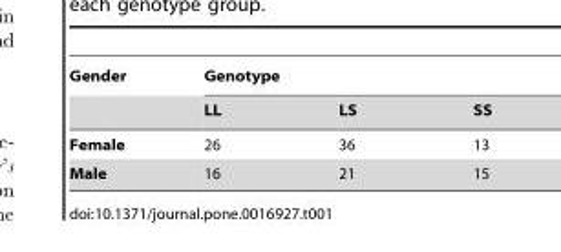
<table><thead><tr><td rowspan="2">Gender</td><td colspan="3">Genotype</td></tr><tr><td>LL</td><td>LS</td><td>SS</td></tr></thead><tbody><tr><td>Female</td><td>26</td><td>36</td><td>13</td></tr><tr><td>Male</td><td>16</td><td>21</td><td>15</td></tr></tbody></table>